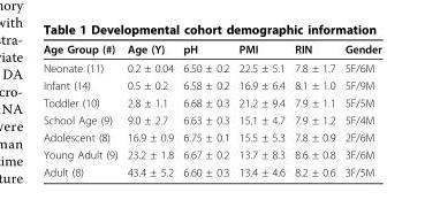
<table><thead><tr><td>Age Group (#)</td><td>Age (Y)</td><td>pH</td><td>PMI</td><td>RIN</td><td>Gender</td></tr></thead><tbody><tr><td>Neonate (11)</td><td>0.2 ± 0.04</td><td>6.50 ± 0.2</td><td>22.5 ± 5.1</td><td>7.8 ± 1.7</td><td>5F/6M</td></tr><tr><td>Infant (14)</td><td>0.5 ± 0.2</td><td>6.58 ± 0.2</td><td>16.9 ± 6.4</td><td>8.1 ± 1.0</td><td>5F/9M</td></tr><tr><td>Toddler (10)</td><td>2.8 ± 1.1</td><td>6.68 ± 0.3</td><td>21.2 ± 9.4</td><td>7.9 ± 1.1</td><td>5F/5M</td></tr><tr><td>School Age (9)</td><td>9.0 ± 2.7</td><td>6.63 ± 0.3</td><td>15.1 ± 4.7</td><td>7.9 ± 1.2</td><td>5F/4M</td></tr><tr><td>Adolescent (8)</td><td>16.9 ± 0.9</td><td>6.75 ± 0.1</td><td>15.5 ± 5.3</td><td>7.8 ± 0.9</td><td>2F/6M</td></tr><tr><td>Young Adult (9)</td><td>23.2 ± 1.8</td><td>6.67 ± 0.2</td><td>13.7 ± 8.3</td><td>8.6 ± 0.8</td><td>3F/6M</td></tr><tr><td>Adult (8)</td><td>43.4 ± 5.2</td><td>6.60 ± 0.3</td><td>13.4 ± 4.6</td><td>8.2 ± 0.6</td><td>3F/5M</td></tr></tbody></table>